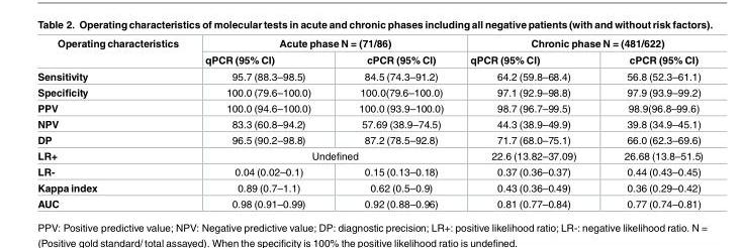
<table><thead><tr><td rowspan="2">Operating characteristics</td><td colspan="2">Acute phase N = (71/86)</td><td colspan="2">Chronic phase N = (481/622)</td></tr><tr><td>qPCR (95% CI)</td><td>cPCR (95% CI)</td><td>qPCR (95% CI)</td><td>cPCR (95% CI)</td></tr></thead><tbody><tr><td>Sensitivity</td><td>95.7 (88.3–98.5)</td><td>84.5 (74.3–91.2)</td><td>64.2 (59.8–68.4)</td><td>56.8 (52.3–61.1)</td></tr><tr><td>Specificity</td><td>100.0 (79.6–100.0)</td><td>100.0(79.6–100.0)</td><td>97.1 (92.9–98.8)</td><td>97.9 (93.9–99.2)</td></tr><tr><td>PPV</td><td>100.0 (94.6–100.0)</td><td>100.0 (93.9–100.0)</td><td>98.7 (96.7–99.5)</td><td>98.9(96.8–99.6)</td></tr><tr><td>NPV</td><td>83.3 (60.8–94.2)</td><td>57.69 (38.9–74.5)</td><td>44.3 (38.9–49.9)</td><td>39.8 (34.9–45.1)</td></tr><tr><td>DP</td><td>96.5 (90.2–98.8)</td><td>87.2 (78.5–92.8)</td><td>71.7 (68.0–75.1)</td><td>66.0 (62.3–69.6)</td></tr><tr><td>LR+</td><td colspan="2">Undefined</td><td>22.6 (13.82–37.09)</td><td>26.68 (13.8–51.5)</td></tr><tr><td>LR-</td><td>0.04 (0.02–0.1)</td><td>0.15 (0.13–0.18)</td><td>0.37 (0.36–0.37)</td><td>0.44 (0.43–0.45)</td></tr><tr><td>Kappa index</td><td>0.89 (0.7–1.1)</td><td>0.62 (0.5–0.9)</td><td>0.43 (0.36–0.49)</td><td>0.36 (0.29–0.42)</td></tr><tr><td>AUC</td><td>0.98 (0.91–0.99)</td><td>0.92 (0.88–0.96)</td><td>0.81 (0.77–0.84)</td><td>0.77 (0.74–0.81)</td></tr></tbody></table>